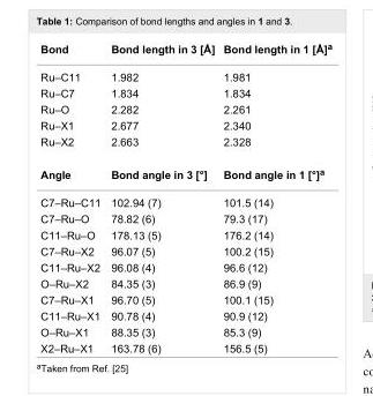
<table><tbody><tr><td>Bond</td><td>Bond length in 3 [Å]</td><td>Bond length in 1 [Å]<sup>a</sup></td></tr><tr><td>Ru–C11</td><td>1.982</td><td>1.981</td></tr><tr><td>Ru–C7</td><td>1.834</td><td>1.834</td></tr><tr><td>Ru–O</td><td>2.282</td><td>2.261</td></tr><tr><td>Ru–X1</td><td>2.677</td><td>2.340</td></tr><tr><td>Ru–X2</td><td>2.663</td><td>2.328</td></tr><tr><td>Angle</td><td>Bond angle in 3 [°]</td><td>Bond angle in 1 [°]<sup>a</sup></td></tr><tr><td>C7–Ru–C11</td><td>102.94 (7)</td><td>101.5 (14)</td></tr><tr><td>C7–Ru–O</td><td>78.82 (6)</td><td>79.3 (17)</td></tr><tr><td>C11–Ru–O</td><td>178.13 (5)</td><td>176.2 (14)</td></tr><tr><td>C7–Ru–X2</td><td>96.07 (5)</td><td>100.2 (15)</td></tr><tr><td>C11–Ru–X2</td><td>96.08 (4)</td><td>96.6 (12)</td></tr><tr><td>O–Ru–X2</td><td>84.35 (3)</td><td>86.9 (9)</td></tr><tr><td>C7–Ru–X1</td><td>96.70 (5)</td><td>100.1 (15)</td></tr><tr><td>C11–Ru–X1</td><td>90.78 (4)</td><td>90.9 (12)</td></tr><tr><td>O–Ru–X1</td><td>88.35 (3)</td><td>85.3 (9)</td></tr><tr><td>X2–Ru–X1</td><td>163.78 (6)</td><td>156.5 (5)</td></tr></tbody></table>